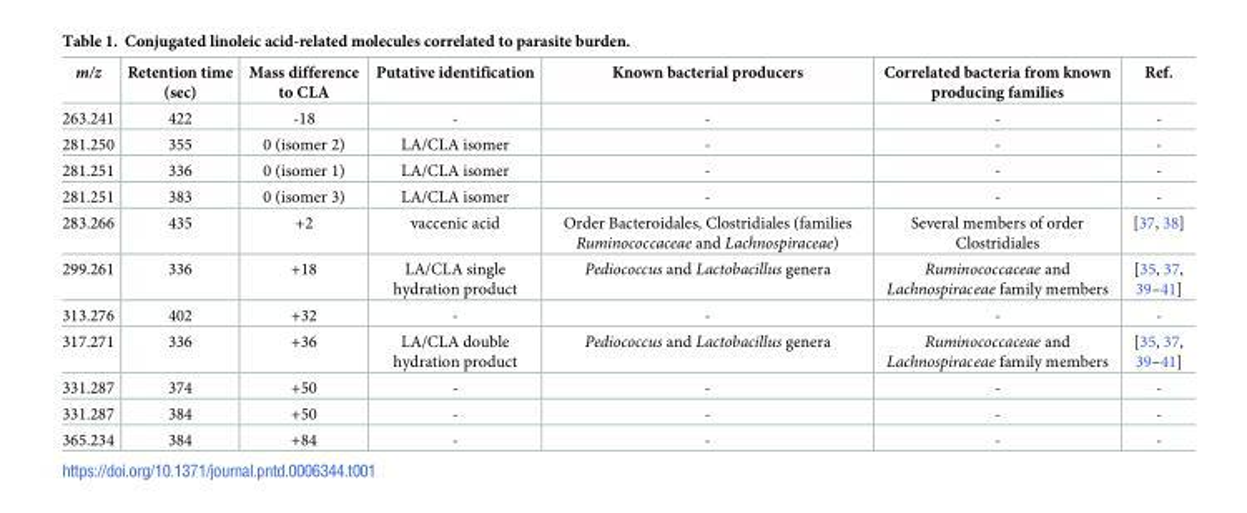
<table><thead><tr><td>m/z</td><td>Retention time (sec)</td><td>Mass difference to CLA</td><td>Putative identification</td><td>Known bacterial producers</td><td>Correlated bacteria from known producing families</td><td>Ref.</td></tr></thead><tbody><tr><td>263.241</td><td>422</td><td>-18</td><td>-</td><td>-</td><td>-</td><td>-</td></tr><tr><td>281.250</td><td>355</td><td>0 (isomer 2)</td><td>LA/CLA isomer</td><td>-</td><td>-</td><td>-</td></tr><tr><td>281.251</td><td>336</td><td>0 (isomer 1)</td><td>LA/CLA isomer</td><td>-</td><td>-</td><td>-</td></tr><tr><td>281.251</td><td>383</td><td>0 (isomer 3)</td><td>LA/CLA isomer</td><td>-</td><td>-</td><td>-</td></tr><tr><td>283.266</td><td>435</td><td>+2</td><td>vaccenic acid</td><td>Order Bacteroidales, Clostridiales (families Ruminococcaceae and Lachnospiraceae)</td><td>Several members of order Clostridiales</td><td>[37, 38]</td></tr><tr><td>299.261</td><td>336</td><td>+18</td><td>LA/CLA single hydration product</td><td>Pediococcus and Lactobacillus genera</td><td>Ruminococcaceae and Lachnospiraceae family members</td><td>[35, 37, 39–41]</td></tr><tr><td>313.276</td><td>402</td><td>+32</td><td>-</td><td>-</td><td>-</td><td>-</td></tr><tr><td>317.271</td><td>336</td><td>+36</td><td>LA/CLA double hydration product</td><td>Pediococcus and Lactobacillus genera</td><td>Ruminococcaceae and Lachnospiraceae family members</td><td>[35, 37, 39–41]</td></tr><tr><td>331.287</td><td>374</td><td>+50</td><td>-</td><td>-</td><td>-</td><td>-</td></tr><tr><td>331.287</td><td>384</td><td>+50</td><td>-</td><td>-</td><td>-</td><td>-</td></tr><tr><td>365.234</td><td>384</td><td>+84</td><td>-</td><td>-</td><td>-</td><td>-</td></tr></tbody></table>